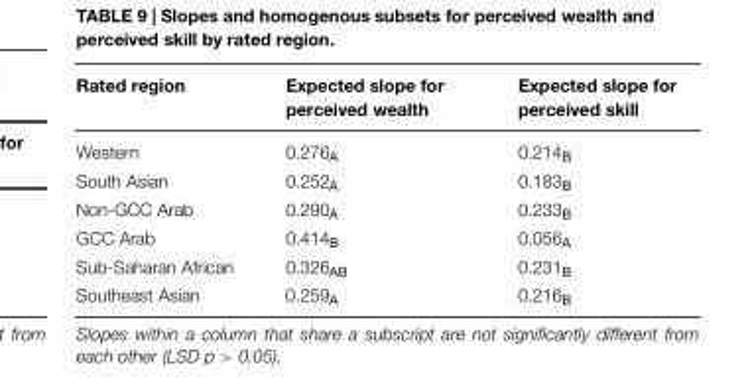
<table><thead><tr><td>Rated region</td><td>Expected slope for perceived wealth</td><td>Expected slope for perceived skill</td></tr></thead><tbody><tr><td>Western</td><td>0.276<sub>A</sub></td><td>0.214<sub>B</sub></td></tr><tr><td>South Asian</td><td>0.252<sub>A</sub></td><td>0.183<sub>B</sub></td></tr><tr><td>Non-GCC Arab</td><td>0.290<sub>A</sub></td><td>0.233<sub>B</sub></td></tr><tr><td>GCC Arab</td><td>0.414<sub>B</sub></td><td>0.056<sub>A</sub></td></tr><tr><td>Sub-Saharan African</td><td>0.326<sub>AB</sub></td><td>0.231<sub>B</sub></td></tr><tr><td>Southeast Asian</td><td>0.259<sub>A</sub></td><td>0.216<sub>B</sub></td></tr></tbody></table>